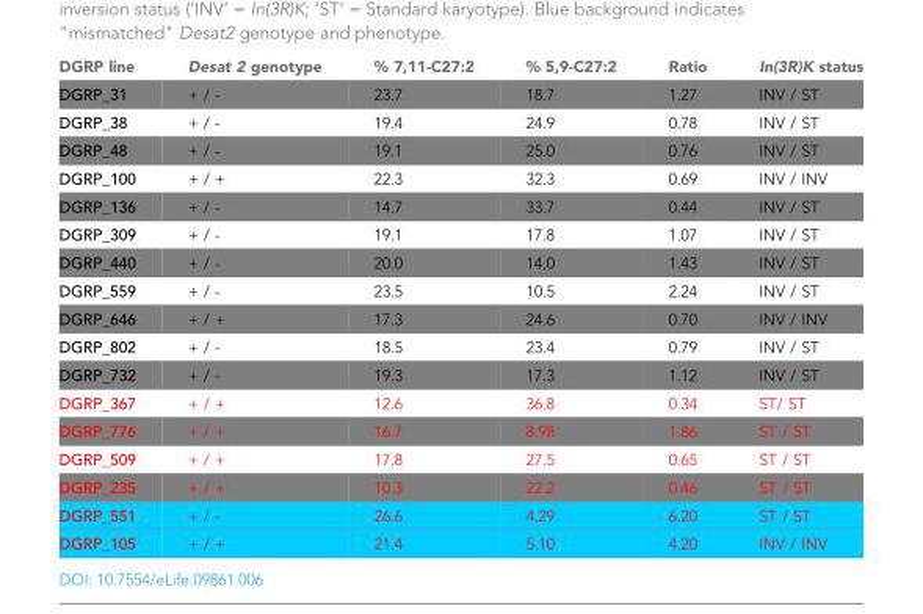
<table><thead><tr><td>DGRP line</td><td>Desat 2 genotype</td><td>% 7,11-C27:2</td><td>% 5,9-C27:2</td><td>Ratio</td><td>In(3R)K status</td></tr></thead><tbody><tr><td>DGRP_31</td><td>+ / -</td><td>23.7</td><td>18.7</td><td>1.27</td><td>INV / ST</td></tr><tr><td>DGRP_38</td><td>+ / -</td><td>19.4</td><td>24.9</td><td>0.78</td><td>INV / ST</td></tr><tr><td>DGRP_48</td><td>+ / -</td><td>19.1</td><td>25.0</td><td>0.76</td><td>INV / ST</td></tr><tr><td>DGRP_100</td><td>+ / +</td><td>22.3</td><td>32.3</td><td>0.69</td><td>INV / INV</td></tr><tr><td>DGRP_136</td><td>+ / -</td><td>14.7</td><td>33.7</td><td>0.44</td><td>INV / ST</td></tr><tr><td>DGRP_309</td><td>+ / -</td><td>19.1</td><td>17.8</td><td>1.07</td><td>INV / ST</td></tr><tr><td>DGRP_440</td><td>+ / -</td><td>20.0</td><td>14.0</td><td>1.43</td><td>INV / ST</td></tr><tr><td>DGRP_559</td><td>+ / -</td><td>23.5</td><td>10.5</td><td>2.24</td><td>INV / ST</td></tr><tr><td>DGRP_646</td><td>+ / +</td><td>17.3</td><td>24.6</td><td>0.70</td><td>INV / INV</td></tr><tr><td>DGRP_802</td><td>+ / -</td><td>18.5</td><td>23.4</td><td>0.79</td><td>INV / ST</td></tr><tr><td>DGRP_732</td><td>+ / -</td><td>19.3</td><td>17.3</td><td>1.12</td><td>INV / ST</td></tr><tr><td>DGRP_367</td><td>+ / +</td><td>12.6</td><td>36.8</td><td>0.34</td><td>ST/ ST</td></tr><tr><td>DGRP_776</td><td>+ / +</td><td>16.7</td><td>8.98</td><td>1.86</td><td>ST / ST</td></tr><tr><td>DGRP_509</td><td>+ / +</td><td>17.8</td><td>27.5</td><td>0.65</td><td>ST / ST</td></tr><tr><td>DGRP_235</td><td>+ / +</td><td>10.3</td><td>22.2</td><td>0.46</td><td>ST / ST</td></tr><tr><td>DGRP_551</td><td>+ / -</td><td>26.6</td><td>4.29</td><td>6.20</td><td>ST / ST</td></tr><tr><td>DGRP_105</td><td>+ / +</td><td>21.4</td><td>5.10</td><td>4.20</td><td>INV / INV</td></tr></tbody></table>